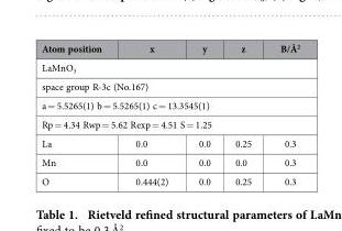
<table><thead><tr><td>Atom position</td><td>x</td><td>y</td><td>z</td><td>B/Å<sup>2</sup></td></tr></thead><tbody><tr><td colspan="5">LaMnO<sub>3</sub></td></tr><tr><td colspan="5">space group R-3c (No.167)</td></tr><tr><td colspan="5">a = 5.5265(1) b = 5.5265(1) c = 13.3545(1)</td></tr><tr><td colspan="5">Rp = 4.34 Rwp = 5.62 Rexp = 4.51 S = 1.25</td></tr><tr><td>La</td><td>0.0</td><td>0.0</td><td>0.25</td><td>0.3</td></tr><tr><td>Mn</td><td>0.0</td><td>0.0</td><td>0.0</td><td>0.3</td></tr><tr><td>O</td><td>0.444(2)</td><td>0.0</td><td>0.25</td><td>0.3</td></tr></tbody></table>